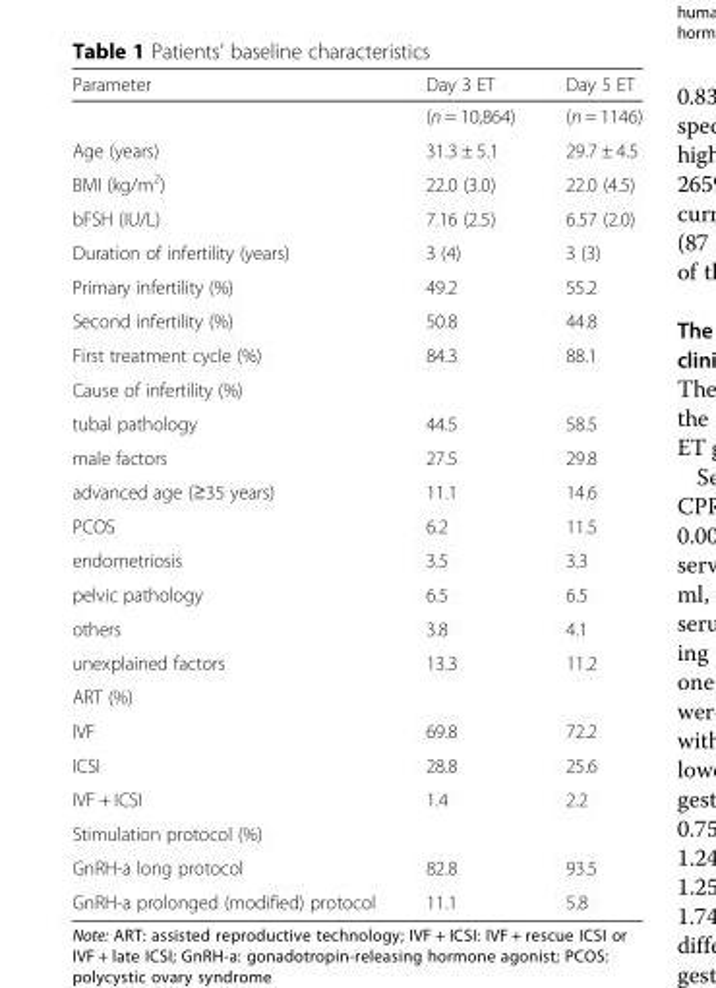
<table><thead><tr><td>Parameter</td><td>Day 3 ET</td><td>Day 5 ET</td></tr></thead><tbody><tr><td></td><td>(n = 10,864)</td><td>(n = 1146)</td></tr><tr><td>Age (years)</td><td>31.3 ± 5.1</td><td>29.7 ± 4.5</td></tr><tr><td>BMI (kg/m<sup>2</sup>)</td><td>22.0 (3.0)</td><td>22.0 (4.5)</td></tr><tr><td>bFSH (IU/L)</td><td>7.16 (2.5)</td><td>6.57 (2.0)</td></tr><tr><td>Duration of infertility (years)</td><td>3 (4)</td><td>3 (3)</td></tr><tr><td>Primary infertility (%)</td><td>49.2</td><td>55.2</td></tr><tr><td>Second infertility (%)</td><td>50.8</td><td>44.8</td></tr><tr><td>First treatment cycle (%)</td><td>84.3</td><td>88.1</td></tr><tr><td colspan="3">Cause of infertility (%)</td></tr><tr><td>tubal pathology</td><td>44.5</td><td>58.5</td></tr><tr><td>male factors</td><td>27.5</td><td>29.8</td></tr><tr><td>advanced age (≥35 years)</td><td>11.1</td><td>14.6</td></tr><tr><td>PCOS</td><td>6.2</td><td>11.5</td></tr><tr><td>endometriosis</td><td>3.5</td><td>3.3</td></tr><tr><td>pelvic pathology</td><td>6.5</td><td>6.5</td></tr><tr><td>others</td><td>3.8</td><td>4.1</td></tr><tr><td>unexplained factors</td><td>13.3</td><td>11.2</td></tr><tr><td colspan="3">ART (%)</td></tr><tr><td>IVF</td><td>69.8</td><td>72.2</td></tr><tr><td>ICSI</td><td>28.8</td><td>25.6</td></tr><tr><td>IVF + ICSI</td><td>1.4</td><td>2.2</td></tr><tr><td colspan="3">Stimulation protocol (%)</td></tr><tr><td>GnRH-a long protocol</td><td>82.8</td><td>93.5</td></tr><tr><td>GnRH-a prolonged (modified) protocol</td><td>11.1</td><td>5.8</td></tr></tbody></table>